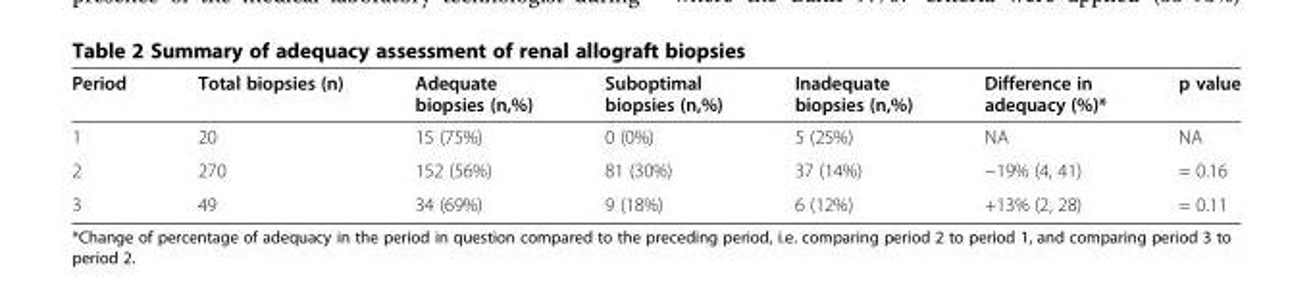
<table><thead><tr><td>Period</td><td>Total biopsies (n)</td><td>Adequate biopsies (n,%)</td><td>Suboptimal biopsies (n,%)</td><td>Inadequate biopsies (n,%)</td><td>Difference in adequacy (%)*</td><td>p value</td></tr></thead><tbody><tr><td>1</td><td>20</td><td>15 (75%)</td><td>0 (0%)</td><td>5 (25%)</td><td>NA</td><td>NA</td></tr><tr><td>2</td><td>270</td><td>152 (56%)</td><td>81 (30%)</td><td>37 (14%)</td><td>−19% (4, 41)</td><td>= 0.16</td></tr><tr><td>3</td><td>49</td><td>34 (69%)</td><td>9 (18%)</td><td>6 (12%)</td><td>+13% (2, 28)</td><td>= 0.11</td></tr></tbody></table>